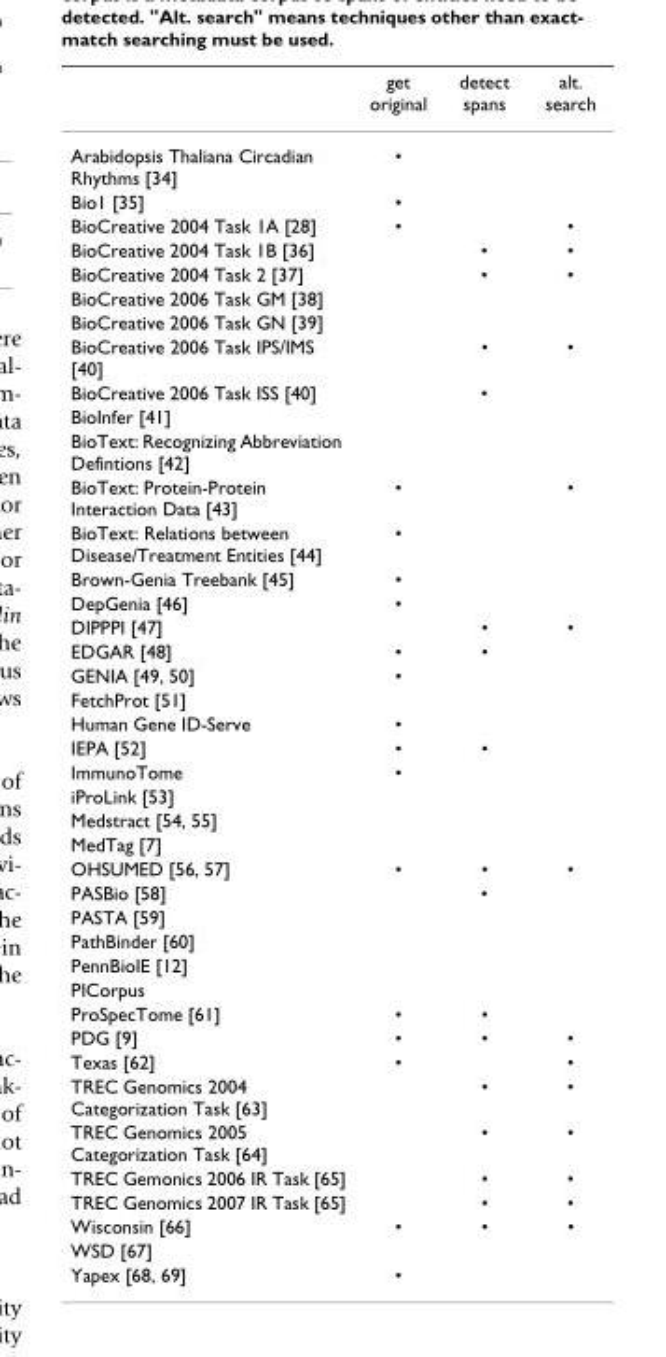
<table><thead><tr><td></td><td>get original</td><td>detect spans</td><td>alt. search</td></tr></thead><tbody><tr><td>Arabidopsis Thaliana Circadian Rhythms [34]</td><td>•</td><td></td><td></td></tr><tr><td>Bio1 [35]</td><td>•</td><td></td><td></td></tr><tr><td>BioCreative 2004 Task 1A [28]</td><td>•</td><td></td><td>•</td></tr><tr><td>BioCreative 2004 Task 1B [36]</td><td></td><td>•</td><td>•</td></tr><tr><td>BioCreative 2004 Task 2 [37]</td><td></td><td>•</td><td>•</td></tr><tr><td colspan="4">BioCreative 2006 Task GM [38]</td></tr><tr><td colspan="4">BioCreative 2006 Task GN [39]</td></tr><tr><td>BioCreative 2006 Task IPS/IMS [40]</td><td></td><td>•</td><td>•</td></tr><tr><td>BioCreative 2006 Task ISS [40]</td><td></td><td>•</td><td></td></tr><tr><td colspan="4">BioInfer [41]</td></tr><tr><td colspan="4">BioText: Recognizing Abbreviation Defintions [42]</td></tr><tr><td>BioText: Protein-Protein Interaction Data [43]</td><td>•</td><td></td><td>•</td></tr><tr><td>BioText: Relations between Disease/Treatment Entities [44]</td><td>•</td><td></td><td></td></tr><tr><td>Brown-Genia Treebank [45]</td><td>•</td><td></td><td></td></tr><tr><td>DepGenia [46]</td><td>•</td><td></td><td></td></tr><tr><td>DIPPPI [47]</td><td></td><td>•</td><td>•</td></tr><tr><td>EDGAR [48]</td><td>•</td><td>•</td><td></td></tr><tr><td>GENIA [49, 50]</td><td>•</td><td></td><td></td></tr><tr><td colspan="4">FetchProt [51]</td></tr><tr><td>Human Gene ID-Serve</td><td>•</td><td></td><td></td></tr><tr><td>IEPA [52]</td><td>•</td><td>•</td><td></td></tr><tr><td>ImmunoTome</td><td>•</td><td></td><td></td></tr><tr><td colspan="4">iProLink [53]</td></tr><tr><td colspan="4">Medstract [54, 55]</td></tr><tr><td colspan="4">MedTag [7]</td></tr><tr><td>OHSUMED [56, 57]</td><td>•</td><td>•</td><td>•</td></tr><tr><td>PASBio [58]</td><td></td><td>•</td><td></td></tr><tr><td colspan="4">PASTA [59]</td></tr><tr><td colspan="4">PathBinder [60]</td></tr><tr><td colspan="4">PennBioIE [12]</td></tr><tr><td colspan="4">PICorpus</td></tr><tr><td>ProSpecTome [61]</td><td>•</td><td>•</td><td></td></tr><tr><td>PDG [9]</td><td>•</td><td>•</td><td>•</td></tr><tr><td>Texas [62]</td><td>•</td><td></td><td>•</td></tr><tr><td>TREC Genomics 2004 Categorization Task [63]</td><td></td><td>•</td><td>•</td></tr><tr><td>TREC Genomics 2005 Categorization Task [64]</td><td></td><td>•</td><td>•</td></tr><tr><td>TREC Gemonics 2006 IR Task [65]</td><td></td><td>•</td><td>•</td></tr><tr><td>TREC Genomics 2007 IR Task [65]</td><td></td><td>•</td><td>•</td></tr><tr><td>Wisconsin [66]</td><td>•</td><td>•</td><td>•</td></tr><tr><td colspan="4">WSD [67]</td></tr><tr><td>Yapex [68, 69]</td><td>•</td><td></td><td></td></tr></tbody></table>